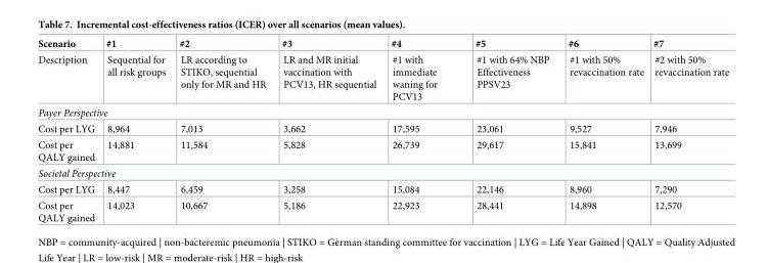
<table><thead><tr><td>Scenario</td><td>#1</td><td>#2</td><td>#3</td><td>#4</td><td>#5</td><td>#6</td><td>#7</td></tr></thead><tbody><tr><td>Description</td><td>Sequential for all risk groups</td><td>LR according to STIKO, sequential only for MR and HR</td><td>LR and MR initial vaccination with PCV13, HR sequential</td><td>#1 with immediate waning for PCV13</td><td>#1 with 64% NBP Effectiveness PPSV23</td><td>#1 with 50% revaccination rate</td><td>#2 with 50% revaccination rate</td></tr><tr><td colspan="8">Payer Perspective</td></tr><tr><td>Cost per LYG</td><td>8,964</td><td>7,013</td><td>3,662</td><td>17,595</td><td>23,061</td><td>9,527</td><td>7,946</td></tr><tr><td>Cost per QALY gained</td><td>14,881</td><td>11,584</td><td>5,828</td><td>26,739</td><td>29,617</td><td>15,841</td><td>13,699</td></tr><tr><td colspan="8">Societal Perspective</td></tr><tr><td>Cost per LYG</td><td>8,447</td><td>6,459</td><td>3,258</td><td>15,084</td><td>22,146</td><td>8,960</td><td>7,290</td></tr><tr><td>Cost per QALY gained</td><td>14,023</td><td>10,667</td><td>5,186</td><td>22,923</td><td>28,441</td><td>14,898</td><td>12,570</td></tr></tbody></table>